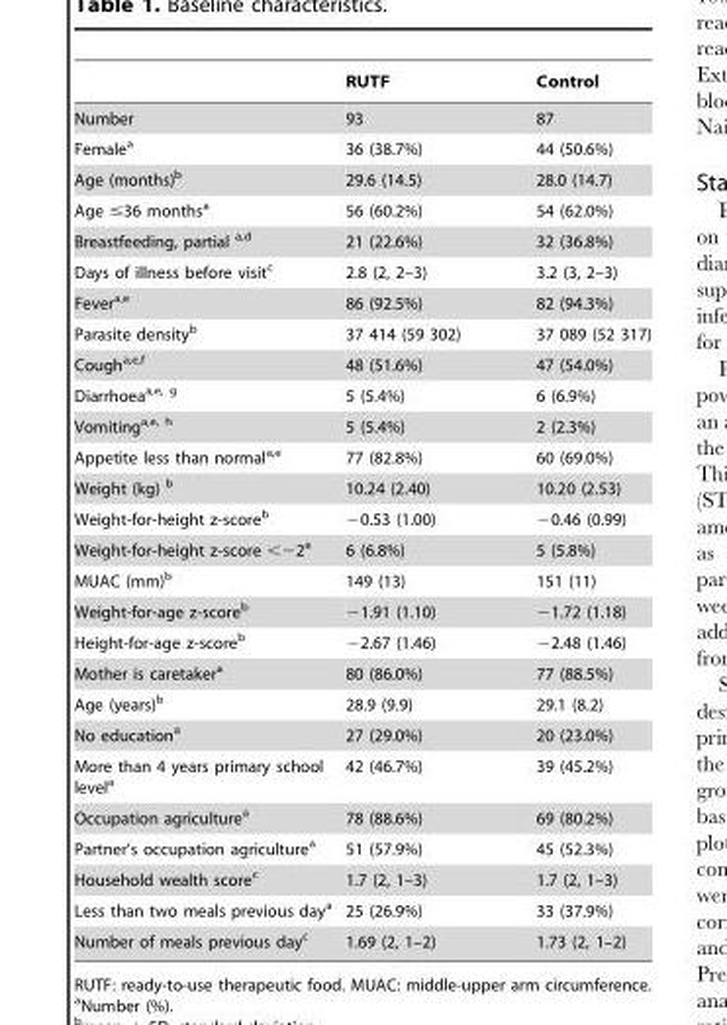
<table><thead><tr><td></td><td>RUTF</td><td>Control</td></tr></thead><tbody><tr><td>Number</td><td>93</td><td>87</td></tr><tr><td>Female<sup>a</sup></td><td>36 (38.7%)</td><td>44 (50.6%)</td></tr><tr><td>Age (months)<sup>b</sup></td><td>29.6 (14.5)</td><td>28.0 (14.7)</td></tr><tr><td>Age ≤36 months<sup>a</sup></td><td>56 (60.2%)</td><td>54 (62.0%)</td></tr><tr><td>Breastfeeding, partial a,d</td><td>21 (22.6%)</td><td>32 (36.8%)</td></tr><tr><td>Days of illness before visit<sup>c</sup></td><td>2.8 (2, 2–3)</td><td>3.2 (3, 2–3)</td></tr><tr><td>Fevera,e</td><td>86 (92.5%)</td><td>82 (94.3%)</td></tr><tr><td>Parasite density<sup>b</sup></td><td>37 414 (59 302)</td><td>37 089 (52 317)</td></tr><tr><td>Cougha,e,f</td><td>48 (51.6%)</td><td>47 (54.0%)</td></tr><tr><td>Diarrhoeaa,e, g</td><td>5 (5.4%)</td><td>6 (6.9%)</td></tr><tr><td>Vomitinga,e, h</td><td>5 (5.4%)</td><td>2 (2.3%)</td></tr><tr><td>Appetite less than normala,e</td><td>77 (82.8%)</td><td>60 (69.0%)</td></tr><tr><td>Weight (kg) b</td><td>10.24 (2.40)</td><td>10.20 (2.53)</td></tr><tr><td>Weight-for-height z-score<sup>b</sup></td><td>−0.53 (1.00)</td><td>−0.46 (0.99)</td></tr><tr><td>Weight-for-height z-score &lt;−2<sup>a</sup></td><td>6 (6.8%)</td><td>5 (5.8%)</td></tr><tr><td>MUAC (mm)<sup>b</sup></td><td>149 (13)</td><td>151 (11)</td></tr><tr><td>Weight-for-age z-score<sup>b</sup></td><td>−1.91 (1.10)</td><td>−1.72 (1.18)</td></tr><tr><td>Height-for-age z-score<sup>b</sup></td><td>−2.67 (1.46)</td><td>−2.48 (1.46)</td></tr><tr><td>Mother is caretaker<sup>a</sup></td><td>80 (86.0%)</td><td>77 (88.5%)</td></tr><tr><td>Age (years)<sup>b</sup></td><td>28.9 (9.9)</td><td>29.1 (8.2)</td></tr><tr><td>No education<sup>a</sup></td><td>27 (29.0%)</td><td>20 (23.0%)</td></tr><tr><td>More than 4 years primary school level<sup>a</sup></td><td>42 (46.7%)</td><td>39 (45.2%)</td></tr><tr><td>Occupation agriculture<sup>a</sup></td><td>78 (88.6%)</td><td>69 (80.2%)</td></tr><tr><td>Partner’s occupation agriculture<sup>a</sup></td><td>51 (57.9%)</td><td>45 (52.3%)</td></tr><tr><td>Household wealth score<sup>c</sup></td><td>1.7 (2, 1–3)</td><td>1.7 (2, 1–3)</td></tr><tr><td>Less than two meals previous day<sup>a</sup></td><td>25 (26.9%)</td><td>33 (37.9%)</td></tr><tr><td>Number of meals previous day<sup>c</sup></td><td>1.69 (2, 1–2)</td><td>1.73 (2, 1–2)</td></tr></tbody></table>